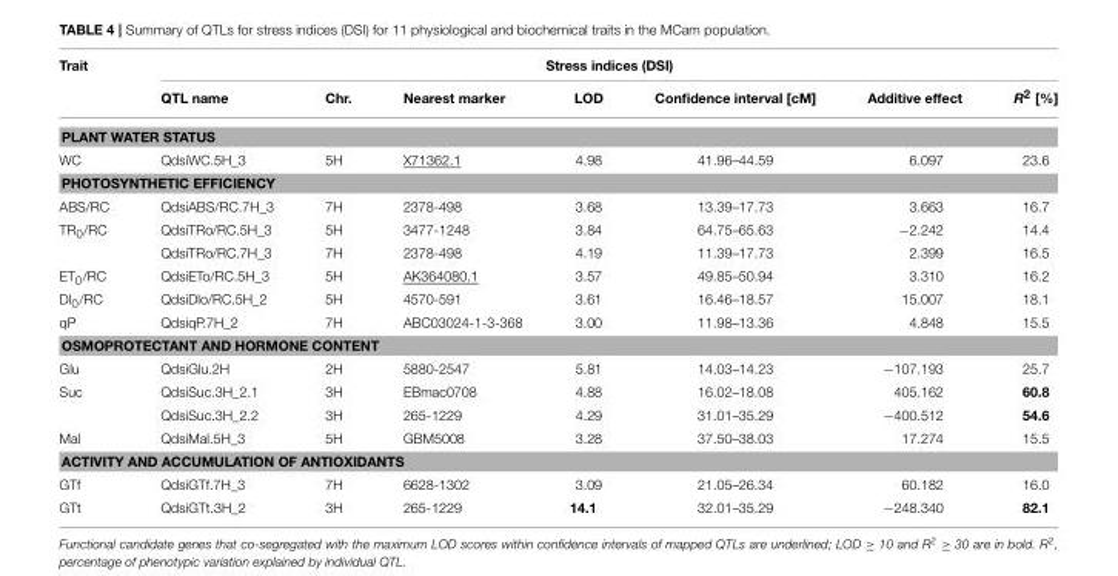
<table><thead><tr><td rowspan="2">Trait</td><td colspan="7">Stress indices (DSI)</td></tr><tr><td>QTL name</td><td>Chr.</td><td>Nearest marker</td><td>LOD</td><td>Confidence interval [cM]</td><td>Additive effect</td><td>R<sup>2</sup> [%]</td></tr></thead><tbody><tr><td colspan="8">PLANT WATER STATUS</td></tr><tr><td>WC</td><td>QdsiWC.5H_3</td><td>5H</td><td>X71362.1</td><td>4.98</td><td>41.96–44.59</td><td>6.097</td><td>23.6</td></tr><tr><td colspan="8">PHOTOSYNTHETIC EFFICIENCY</td></tr><tr><td>ABS/RC</td><td>QdsiABS/RC.7H_3</td><td>7H</td><td>2378-498</td><td>3.68</td><td>13.39–17.73</td><td>3.663</td><td>16.7</td></tr><tr><td rowspan="2">TR<sub>0</sub>/RC</td><td>QdsiTRo/RC.5H_3</td><td>5H</td><td>3477-1248</td><td>3.84</td><td>64.75–65.63</td><td>−2.242</td><td>14.4</td></tr><tr><td>QdsiTRo/RC.7H_3</td><td>7H</td><td>2378-498</td><td>4.19</td><td>11.39–17.73</td><td>2.399</td><td>16.5</td></tr><tr><td>ET<sub>0</sub>/RC</td><td>QdsiETo/RC.5H_3</td><td>5H</td><td>AK364080.1</td><td>3.57</td><td>49.85–50.94</td><td>3.310</td><td>16.2</td></tr><tr><td>DI<sub>0</sub>/RC</td><td>QdsiDlo/RC.5H_2</td><td>5H</td><td>4570-591</td><td>3.61</td><td>16.46–18.57</td><td>15.007</td><td>18.1</td></tr><tr><td>qP</td><td>QdsiqP.7H_2</td><td>7H</td><td>ABC03024-1-3-368</td><td>3.00</td><td>11.98–13.36</td><td>4.848</td><td>15.5</td></tr><tr><td colspan="8">OSMOPROTECTANT AND HORMONE CONTENT</td></tr><tr><td>Glu</td><td>QdsiGlu.2H</td><td>2H</td><td>5880-2547</td><td>5.81</td><td>14.03–14.23</td><td>−107.193</td><td>25.7</td></tr><tr><td rowspan="2">Suc</td><td>QdsiSuc.3H_2.1</td><td>3H</td><td>EBmac0708</td><td>4.88</td><td>16.02–18.08</td><td>405.162</td><td>60.8</td></tr><tr><td>QdsiSuc.3H_2.2</td><td>3H</td><td>265-1229</td><td>4.29</td><td>31.01–35.29</td><td>−400.512</td><td>54.6</td></tr><tr><td>Mal</td><td>QdsiMal.5H_3</td><td>5H</td><td>GBM5008</td><td>3.28</td><td>37.50–38.03</td><td>17.274</td><td>15.5</td></tr><tr><td colspan="8">ACTIVITY AND ACCUMULATION OF ANTIOXIDANTS</td></tr><tr><td>GTf</td><td>QdsiGTf.7H_3</td><td>7H</td><td>6628-1302</td><td>3.09</td><td>21.05–26.34</td><td>60.182</td><td>16.0</td></tr><tr><td>GTt</td><td>QdsiGTt.3H_2</td><td>3H</td><td>265-1229</td><td>14.1</td><td>32.01–35.29</td><td>−248.340</td><td>82.1</td></tr></tbody></table>